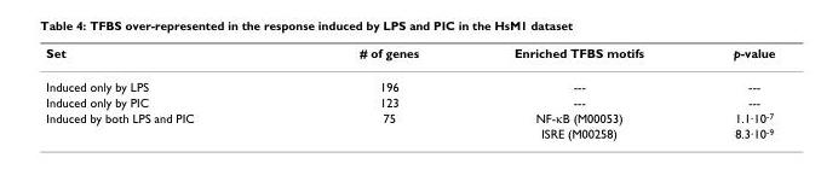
<table><thead><tr><td>Set</td><td># of genes</td><td>Enriched TFBS motifs</td><td>p-value</td></tr></thead><tbody><tr><td>Induced only by LPS</td><td>196</td><td>---</td><td>---</td></tr><tr><td>Induced only by PIC</td><td>123</td><td>---</td><td>---</td></tr><tr><td rowspan="2">Induced by both LPS and PIC</td><td>75</td><td>NF-κB (M00053)</td><td>1.1·10<sup>-7</sup></td></tr><tr><td></td><td>ISRE (M00258)</td><td>8.3·10<sup>-9</sup></td></tr></tbody></table>